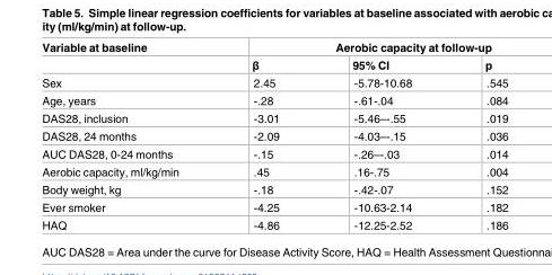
<table><thead><tr><td rowspan="2">Variable at baseline</td><td colspan="3">Aerobic capacity at follow-up</td></tr><tr><td>β</td><td>95% CI</td><td>p</td></tr></thead><tbody><tr><td>Sex</td><td>2.45</td><td>-5.78-10.68</td><td>.545</td></tr><tr><td>Age, years</td><td>-.28</td><td>-.61-.04</td><td>.084</td></tr><tr><td>DAS28, inclusion</td><td>-3.01</td><td>-5.46–-.55</td><td>.019</td></tr><tr><td>DAS28, 24 months</td><td>-2.09</td><td>-4.03–-.15</td><td>.036</td></tr><tr><td>AUC DAS28, 0-24 months</td><td>-.15</td><td>-.26–-.03</td><td>.014</td></tr><tr><td>Aerobic capacity, ml/kg/min</td><td>.45</td><td>.16-.75</td><td>.004</td></tr><tr><td>Body weight, kg</td><td>-.18</td><td>-.42-.07</td><td>.152</td></tr><tr><td>Ever smoker</td><td>-4.25</td><td>-10.63-2.14</td><td>.182</td></tr><tr><td>HAQ</td><td>-4.86</td><td>-12.25-2.52</td><td>.186</td></tr></tbody></table>